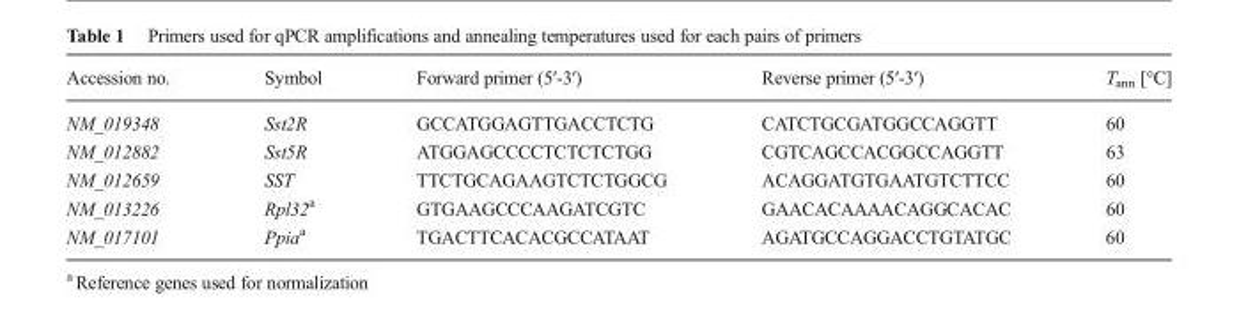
<table><thead><tr><td>Accession no.</td><td>Symbol</td><td>Forward primer (5′-3′)</td><td>Reverse primer (5′-3′)</td><td>T<sub>ann</sub> [°C]</td></tr></thead><tbody><tr><td>NM_019348</td><td>Sst2R</td><td>GCCATGGAGTTGACCTCTG</td><td>CATCTGCGATGGCCAGGTT</td><td>60</td></tr><tr><td>NM_012882</td><td>Sst5R</td><td>ATGGAGCCCCTCTCTCTGG</td><td>CGTCAGCCACGGCCAGGTT</td><td>63</td></tr><tr><td>NM_012659</td><td>SST</td><td>TTCTGCAGAAGTCTCTGGCG</td><td>ACAGGATGTGAATGTCTTCC</td><td>60</td></tr><tr><td>NM_013226</td><td>Rpl32<sup>a</sup></td><td>GTGAAGCCCAAGATCGTC</td><td>GAACACAAAACAGGCACAC</td><td>60</td></tr><tr><td>NM_017101</td><td>Ppia<sup>a</sup></td><td>TGACTTCACACGCCATAAT</td><td>AGATGCCAGGACCTGTATGC</td><td>60</td></tr></tbody></table>